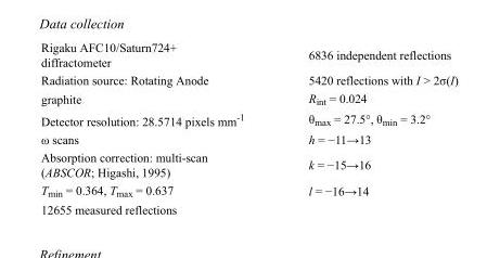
<table><tbody><tr><td>Rigaku AFC10/Saturn724+ diffractometer</td><td>6836 independent reflections</td></tr><tr><td>Radiation source: Rotating Anode</td><td>5420 reflections with I &gt; 2σ(I)</td></tr><tr><td>graphite</td><td>R<sub>int</sub> = 0.024</td></tr><tr><td>Detector resolution: 28.5714 pixels mm<sup>-1</sup></td><td>θ<sub>max</sub> = 27.5°, θ<sub>min</sub> = 3.2°</td></tr><tr><td>ω scans</td><td>h = −11→13</td></tr><tr><td>Absorption correction: multi-scan (ABSCOR; Higashi, 1995)</td><td>k = −15→16</td></tr><tr><td>T<sub>min</sub> = 0.364, T<sub>max</sub> = 0.637</td><td>l = −16→14</td></tr><tr><td>12655 measured reflections</td><td></td></tr></tbody></table>